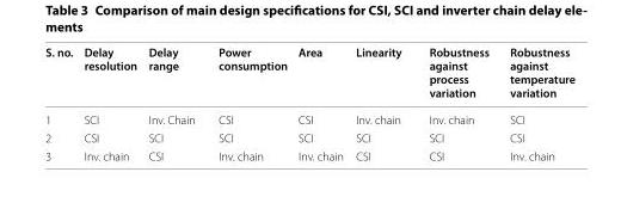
<table><thead><tr><td>S. no.</td><td>Delay resolution</td><td>Delay range</td><td>Power consumption</td><td>Area</td><td>Linearity</td><td>Robustness against process variation</td><td>Robustness against temperature variation</td></tr></thead><tbody><tr><td>1</td><td>SCI</td><td>Inv. Chain</td><td>CSI</td><td>CSI</td><td>Inv. chain</td><td>Inv. chain</td><td>SCI</td></tr><tr><td>2</td><td>CSI</td><td>SCI</td><td>SCI</td><td>SCI</td><td>SCI</td><td>SCI</td><td>CSI</td></tr><tr><td>3</td><td>Inv. chain</td><td>CSI</td><td>Inv. chain</td><td>Inv. chain</td><td>CSI</td><td>CSI</td><td>Inv. chain</td></tr></tbody></table>